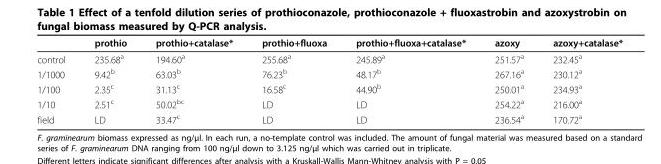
<table><thead><tr><td></td><td>prothio</td><td>prothio+catalase*</td><td>prothio+fluoxa</td><td>prothio+fluoxa+catalase*</td><td>azoxy</td><td>azoxy+catalase*</td></tr></thead><tbody><tr><td>control</td><td>235.68<sup>a</sup></td><td>194.60<sup>a</sup></td><td>255.68<sup>a</sup></td><td>245.89<sup>a</sup></td><td>251.57<sup>a</sup></td><td>232.45<sup>a</sup></td></tr><tr><td>1/1000</td><td>9.42<sup>b</sup></td><td>63.03<sup>b</sup></td><td>76.23<sup>b</sup></td><td>48.17<sup>b</sup></td><td>267.16<sup>a</sup></td><td>230.12<sup>a</sup></td></tr><tr><td>1/100</td><td>2.35<sup>c</sup></td><td>31.13<sup>c</sup></td><td>16.58<sup>c</sup></td><td>44.90<sup>b</sup></td><td>250.01<sup>a</sup></td><td>234.93<sup>a</sup></td></tr><tr><td>1/10</td><td>2.51<sup>c</sup></td><td>50.02<sup>bc</sup></td><td>LD</td><td>LD</td><td>254.22<sup>a</sup></td><td>216.00<sup>a</sup></td></tr><tr><td>field</td><td>LD</td><td>33.47<sup>c</sup></td><td>LD</td><td>LD</td><td>236.54<sup>a</sup></td><td>170.72<sup>a</sup></td></tr></tbody></table>